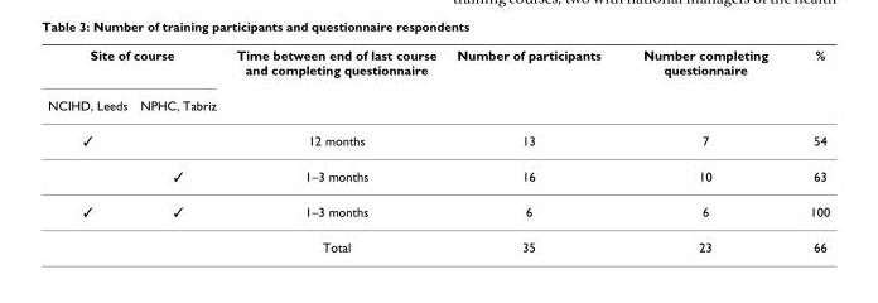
<table><thead><tr><td colspan="2">Site of course</td><td rowspan="2">Time between end of last course and completing questionnaire</td><td rowspan="2">Number of participants</td><td rowspan="2">Number completing questionnaire</td><td rowspan="2">%</td></tr><tr><td>NCIHD, Leeds</td><td>NPHC, Tabriz</td></tr></thead><tbody><tr><td rowspan="2">✓</td><td></td><td>12 months</td><td>13</td><td>7</td><td>54</td></tr><tr><td>✓</td><td>1–3 months</td><td>16</td><td>10</td><td>63</td></tr><tr><td rowspan="2">✓</td><td>✓</td><td>1–3 months</td><td>6</td><td>6</td><td>100</td></tr><tr><td></td><td>Total</td><td>35</td><td>23</td><td>66</td></tr></tbody></table>